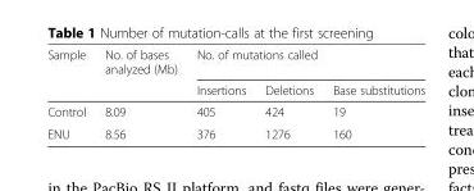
<table><thead><tr><td rowspan="2">Sample</td><td rowspan="2">No. of bases analyzed (Mb)</td><td colspan="3">No. of mutations called</td></tr><tr><td>Insertions</td><td>Deletions</td><td>Base substitutions</td></tr></thead><tbody><tr><td>Control</td><td>8.09</td><td>405</td><td>424</td><td>19</td></tr><tr><td>ENU</td><td>8.56</td><td>376</td><td>1276</td><td>160</td></tr></tbody></table>